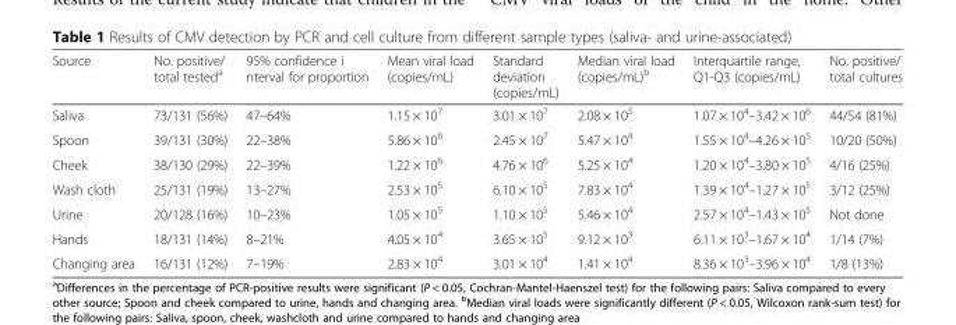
<table><thead><tr><td>Source</td><td>No. positive/ total tested<sup>a</sup></td><td>95% confidence i nterval for proportion</td><td>Mean viral load (copies/mL)</td><td>Standard deviation (copies/mL)</td><td>Median viral load (copies/mL)<sup>b</sup></td><td>Interquartile range, Q1-Q3 (copies/mL)</td><td>No. positive/ total cultures</td></tr></thead><tbody><tr><td>Saliva</td><td>73/131 (56%)</td><td>47–64%</td><td>1.15 × 10<sup>7</sup></td><td>3.01 × 10<sup>7</sup></td><td>2.08 × 10<sup>5</sup></td><td>1.07 × 10<sup>4</sup>–3.42 × 10<sup>6</sup></td><td>44/54 (81%)</td></tr><tr><td>Spoon</td><td>39/131 (30%)</td><td>22–38%</td><td>5.86 × 10<sup>6</sup></td><td>2.45 × 10<sup>7</sup></td><td>5.47 × 10<sup>4</sup></td><td>1.55 × 10<sup>4</sup>–4.26 × 10<sup>5</sup></td><td>10/20 (50%)</td></tr><tr><td>Cheek</td><td>38/130 (29%)</td><td>22–39%</td><td>1.22 × 10<sup>6</sup></td><td>4.76 × 10<sup>6</sup></td><td>5.25 × 10<sup>4</sup></td><td>1.20 × 10<sup>4</sup>–3.80 × 10<sup>5</sup></td><td>4/16 (25%)</td></tr><tr><td>Wash cloth</td><td>25/131 (19%)</td><td>13–27%</td><td>2.53 × 10<sup>5</sup></td><td>6.10 × 10<sup>5</sup></td><td>7.83 × 10<sup>4</sup></td><td>1.39 × 10<sup>4</sup>–1.27 × 10<sup>5</sup></td><td>3/12 (25%)</td></tr><tr><td>Urine</td><td>20/128 (16%)</td><td>10–23%</td><td>1.05 × 10<sup>5</sup></td><td>1.10 × 10<sup>5</sup></td><td>5.46 × 10<sup>4</sup></td><td>2.57 × 10<sup>4</sup>–1.43 × 10<sup>5</sup></td><td>Not done</td></tr><tr><td>Hands</td><td>18/131 (14%)</td><td>8–21%</td><td>4.05 × 10<sup>4</sup></td><td>3.65 × 10<sup>5</sup></td><td>9.12 × 10<sup>3</sup></td><td>6.11 × 10<sup>3</sup>–1.67 × 10<sup>4</sup></td><td>1/14 (7%)</td></tr><tr><td>Changing area</td><td>16/131 (12%)</td><td>7–19%</td><td>2.83 × 10<sup>4</sup></td><td>3.01 × 10<sup>4</sup></td><td>1.41 × 10<sup>4</sup></td><td>8.36 × 10<sup>3</sup>–3.96 × 10<sup>4</sup></td><td>1/8 (13%)</td></tr></tbody></table>